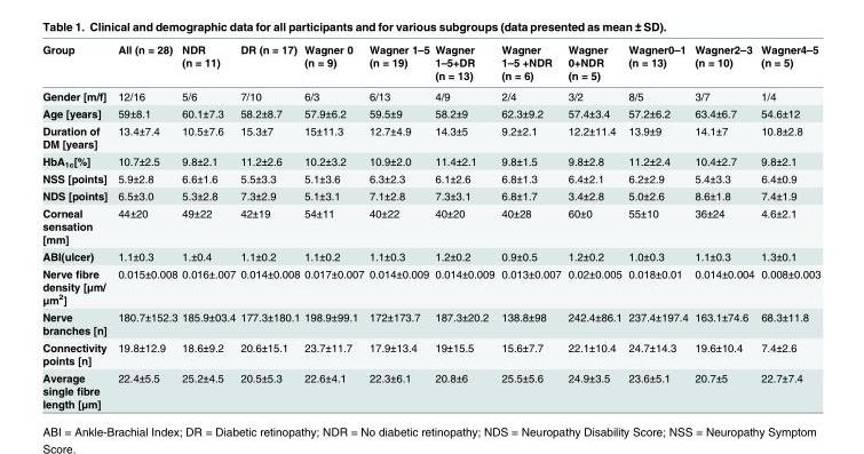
<table><thead><tr><td>Group</td><td>All (n = 28)</td><td>NDR (n = 11)</td><td>DR (n = 17)</td><td>Wagner 0 (n = 9)</td><td>Wagner 1–5 (n = 19)</td><td>Wagner 1–5+DR (n = 13)</td><td>Wagner 1–5 +NDR (n = 6)</td><td>Wagner 0+NDR (n = 5)</td><td>Wagner0–1 (n = 13)</td><td>Wagner2–3 (n = 10)</td><td>Wagner4–5 (n = 5)</td></tr></thead><tbody><tr><td>Gender [m/f]</td><td>12/16</td><td>5/6</td><td>7/10</td><td>6/3</td><td>6/13</td><td>4/9</td><td>2/4</td><td>3/2</td><td>8/5</td><td>3/7</td><td>1/4</td></tr><tr><td>Age [years]</td><td>59±8.1</td><td>60.1±7.3</td><td>58.2±8.7</td><td>57.9±6.2</td><td>59.5±9</td><td>58.2±9</td><td>62.3±9.2</td><td>57.4±3.4</td><td>57.2±6.2</td><td>63.4±6.7</td><td>54.6±12</td></tr><tr><td>Duration of DM [years]</td><td>13.4±7.4</td><td>10.5±7.6</td><td>15.3±7</td><td>15±11.3</td><td>12.7±4.9</td><td>14.3±5</td><td>9.2±2.1</td><td>12.2±11.4</td><td>13.9±9</td><td>14.1±7</td><td>10.8±2.8</td></tr><tr><td>HbA<sub>1c</sub>[%]</td><td>10.7±2.5</td><td>9.8±2.1</td><td>11.2±2.6</td><td>10.2±3.2</td><td>10.9±2.0</td><td>11.4±2.1</td><td>9.8±1.5</td><td>9.8±2.8</td><td>11.2±2.4</td><td>10.4±2.7</td><td>9.8±2.1</td></tr><tr><td>NSS [points]</td><td>5.9±2.8</td><td>6.6±1.6</td><td>5.5±3.3</td><td>5.1±3.6</td><td>6.3±2.3</td><td>6.1±2.6</td><td>6.8±1.3</td><td>6.4±2.1</td><td>6.2±2.9</td><td>5.4±3.3</td><td>6.4±0.9</td></tr><tr><td>NDS [points]</td><td>6.5±3.0</td><td>5.3±2.8</td><td>7.3±2.9</td><td>5.1±3.1</td><td>7.1±2.8</td><td>7.3±3.1</td><td>6.8±1.7</td><td>3.4±2.8</td><td>5.0±2.6</td><td>8.6±1.8</td><td>7.4±1.9</td></tr><tr><td>Corneal sensation [mm]</td><td>44±20</td><td>49±22</td><td>42±19</td><td>54±11</td><td>40±22</td><td>40±20</td><td>40±28</td><td>60±0</td><td>55±10</td><td>36±24</td><td>4.6±2.1</td></tr><tr><td>ABI(ulcer)</td><td>1.1±0.3</td><td>1.±0.4</td><td>1.1±0.2</td><td>1.1±0.2</td><td>1.1±0.3</td><td>1.2±0.2</td><td>0.9±0.5</td><td>1.2±0.2</td><td>1.0±0.3</td><td>1.1±0.3</td><td>1.3±0.1</td></tr><tr><td>Nerve fibre density [μm/ μm<sup>2</sup>]</td><td>0.015±0.008</td><td>0.016±.007</td><td>0.014±0.008</td><td>0.017±0.007</td><td>0.014±0.009</td><td>0.014±0.009</td><td>0.013±0.007</td><td>0.02±0.005</td><td>0.018±0.01</td><td>0.014±0.004</td><td>0.008±0.003</td></tr><tr><td>Nerve branches [n]</td><td>180.7±152.3</td><td>185.9±03.4</td><td>177.3±180.1</td><td>198.9±99.1</td><td>172±173.7</td><td>187.3±20.2</td><td>138.8±98</td><td>242.4±86.1</td><td>237.4±197.4</td><td>163.1±74.6</td><td>68.3±11.8</td></tr><tr><td>Connectivity points [n]</td><td>19.8±12.9</td><td>18.6±9.2</td><td>20.6±15.1</td><td>23.7±11.7</td><td>17.9±13.4</td><td>19±15.5</td><td>15.6±7.7</td><td>22.1±10.4</td><td>24.7±14.3</td><td>19.6±10.4</td><td>7.4±2.6</td></tr><tr><td>Average single fibre length [μm]</td><td>22.4±5.5</td><td>25.2±4.5</td><td>20.5±5.3</td><td>22.6±4.1</td><td>22.3±6.1</td><td>20.8±6</td><td>25.5±5.6</td><td>24.9±3.5</td><td>23.6±5.1</td><td>20.7±5</td><td>22.7±7.4</td></tr></tbody></table>